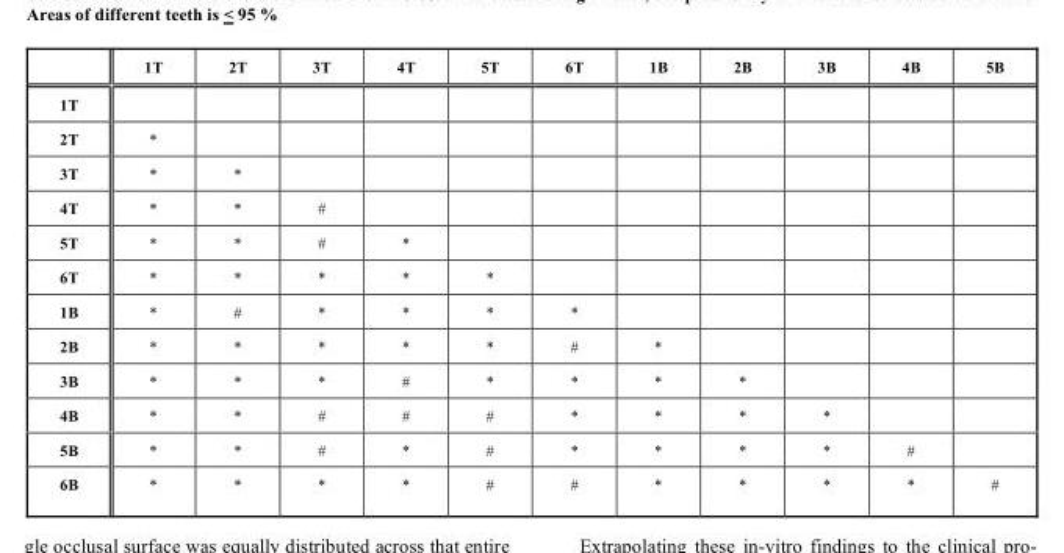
<table><thead><tr><td></td><td>1T</td><td>2T</td><td>3T</td><td>4T</td><td>5T</td><td>6T</td><td>1B</td><td>2B</td><td>3B</td><td>4B</td><td>5B</td></tr></thead><tbody><tr><td colspan="12">1T</td></tr><tr><td>2T</td><td>*</td><td></td><td></td><td></td><td></td><td></td><td></td><td></td><td></td><td></td><td></td></tr><tr><td>3T</td><td>*</td><td>*</td><td></td><td></td><td></td><td></td><td></td><td></td><td></td><td></td><td></td></tr><tr><td>4T</td><td>*</td><td>*</td><td>#</td><td></td><td></td><td></td><td></td><td></td><td></td><td></td><td></td></tr><tr><td>5T</td><td>*</td><td>*</td><td>#</td><td>*</td><td></td><td></td><td></td><td></td><td></td><td></td><td></td></tr><tr><td>6T</td><td>*</td><td>*</td><td>*</td><td>*</td><td>*</td><td></td><td></td><td></td><td></td><td></td><td></td></tr><tr><td>1B</td><td>*</td><td>#</td><td>*</td><td>*</td><td>*</td><td>*</td><td></td><td></td><td></td><td></td><td></td></tr><tr><td>2B</td><td>*</td><td>*</td><td>*</td><td>*</td><td>*</td><td>#</td><td>*</td><td></td><td></td><td></td><td></td></tr><tr><td>3B</td><td>*</td><td>*</td><td>*</td><td>#</td><td>*</td><td>*</td><td>*</td><td>*</td><td></td><td></td><td></td></tr><tr><td>4B</td><td>*</td><td>*</td><td>#</td><td>#</td><td>#</td><td>*</td><td>*</td><td>*</td><td>*</td><td></td><td></td></tr><tr><td>5B</td><td>*</td><td>*</td><td>#</td><td>*</td><td>#</td><td>*</td><td>*</td><td>*</td><td>*</td><td>#</td><td></td></tr><tr><td>6B</td><td>*</td><td>*</td><td>*</td><td>*</td><td>#</td><td>#</td><td>*</td><td>*</td><td>*</td><td>*</td><td>#</td></tr></tbody></table>